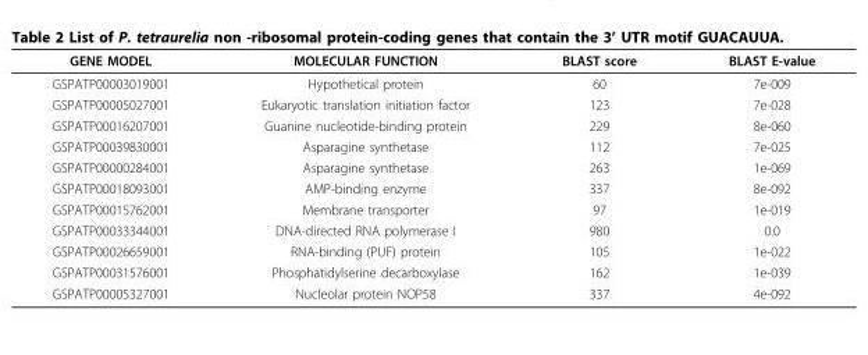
<table><thead><tr><td>GENE MODEL</td><td>MOLECULAR FUNCTION</td><td>BLAST score</td><td>BLAST E-value</td></tr></thead><tbody><tr><td>GSPATP00003019001</td><td>Hypothetical protein</td><td>60</td><td>7e-009</td></tr><tr><td>GSPATP00005027001</td><td>Eukaryotic translation initiation factor</td><td>123</td><td>7e-028</td></tr><tr><td>GSPATP00016207001</td><td>Guanine nucleotide-binding protein</td><td>229</td><td>8e-060</td></tr><tr><td>GSPATP00039830001</td><td>Asparagine synthetase</td><td>112</td><td>7e-025</td></tr><tr><td>GSPATP00000284001</td><td>Asparagine synthetase</td><td>263</td><td>1e-069</td></tr><tr><td>GSPATP00018093001</td><td>AMP-binding enzyme</td><td>337</td><td>8e-092</td></tr><tr><td>GSPATP00015762001</td><td>Membrane transporter</td><td>97</td><td>1e-019</td></tr><tr><td>GSPATP00033344001</td><td>DNA-directed RNA polymerase I</td><td>980</td><td>0.0</td></tr><tr><td>GSPATP00026659001</td><td>RNA-binding (PUF) protein</td><td>105</td><td>1e-022</td></tr><tr><td>GSPATP00031576001</td><td>Phosphatidylserine decarboxylase</td><td>162</td><td>1e-039</td></tr><tr><td>GSPATP00005327001</td><td>Nucleolar protein NOP58</td><td>337</td><td>4e-092</td></tr></tbody></table>